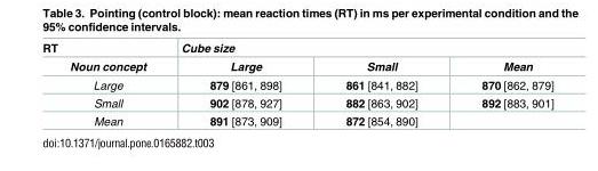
<table><thead><tr><td rowspan="2">RT Noun concept</td><td colspan="3">Cube size</td></tr><tr><td>Large</td><td>Small</td><td>Mean</td></tr></thead><tbody><tr><td>Large</td><td>879 [861, 898]</td><td>861 [841, 882]</td><td>870 [862, 879]</td></tr><tr><td>Small</td><td>902 [878, 927]</td><td>882 [863, 902]</td><td>892 [883, 901]</td></tr><tr><td>Mean</td><td>891 [873, 909]</td><td>872 [854, 890]</td><td></td></tr></tbody></table>